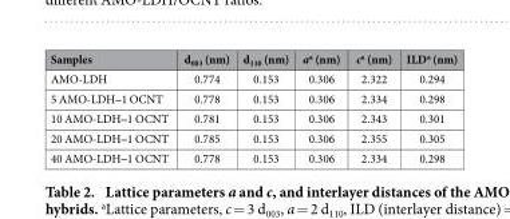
<table><thead><tr><td>Samples</td><td>d<sub>003</sub> (nm)</td><td>d<sub>110</sub> (nm)</td><td>a<sup>a</sup> (nm)</td><td>c<sup>a</sup> (nm)</td><td>ILD<sup>a</sup> (nm)</td></tr></thead><tbody><tr><td>AMO-LDH</td><td>0.774</td><td>0.153</td><td>0.306</td><td>2.322</td><td>0.294</td></tr><tr><td>5 AMO-LDH‒ 1 OCNT</td><td>0.778</td><td>0.153</td><td>0.306</td><td>2.334</td><td>0.298</td></tr><tr><td>10 AMO-LDH‒ 1 OCNT</td><td>0.781</td><td>0.153</td><td>0.306</td><td>2.343</td><td>0.301</td></tr><tr><td>20 AMO-LDH‒ 1 OCNT</td><td>0.785</td><td>0.153</td><td>0.306</td><td>2.355</td><td>0.305</td></tr><tr><td>40 AMO-LDH‒ 1 OCNT</td><td>0.778</td><td>0.153</td><td>0.306</td><td>2.334</td><td>0.298</td></tr></tbody></table>